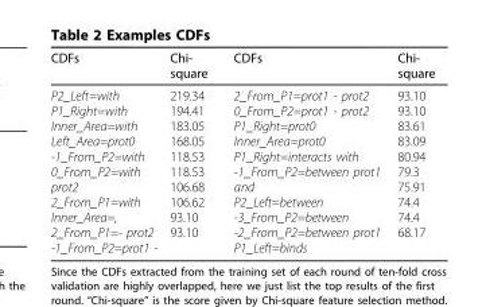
<table><thead><tr><td>CDFs</td><td>Chi- square</td><td>CDFs</td><td>Chi- square</td></tr></thead><tbody><tr><td>P2_Left=with P1_Right=with Inner_Area=with Left_Area=prot0 -1_From_P2=with 0_From_P2=with prot2 2_From_P1=with Inner_Area=, 2_From_P1=- prot2 -1_From_P2=prot1 -</td><td>219.34 194.41 183.05 168.05 118.53 118.53 106.68 106.62 93.10 93.10</td><td>2_From_P1=prot1 - prot2 0_From_P2=prot1 - prot2 P1_Right=prot0 Inner_Area=prot0 P1_Right=interacts with -1_From_P2=between prot1 and P2_Left=between -3_From_P2=between -2_From_P2=between prot1 P1_Left=binds</td><td>93.10 93.10 83.61 83.09 80.94 79.3 75.91 74.4 74.4 68.17</td></tr></tbody></table>